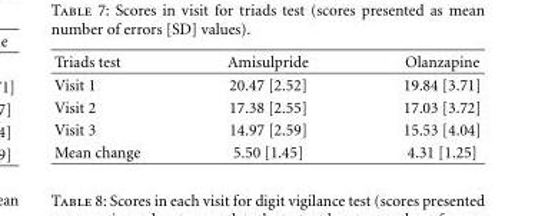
<table><thead><tr><td>Triads test</td><td>Amisulpride</td><td>Olanzapine</td></tr></thead><tbody><tr><td>Visit 1</td><td>20.47 [2.52]</td><td>19.84 [3.71]</td></tr><tr><td>Visit 2</td><td>17.38 [2.55]</td><td>17.03 [3.72]</td></tr><tr><td>Visit 3</td><td>14.97 [2.59]</td><td>15.53 [4.04]</td></tr><tr><td>Mean change</td><td>5.50 [1.45]</td><td>4.31 [1.25]</td></tr></tbody></table>